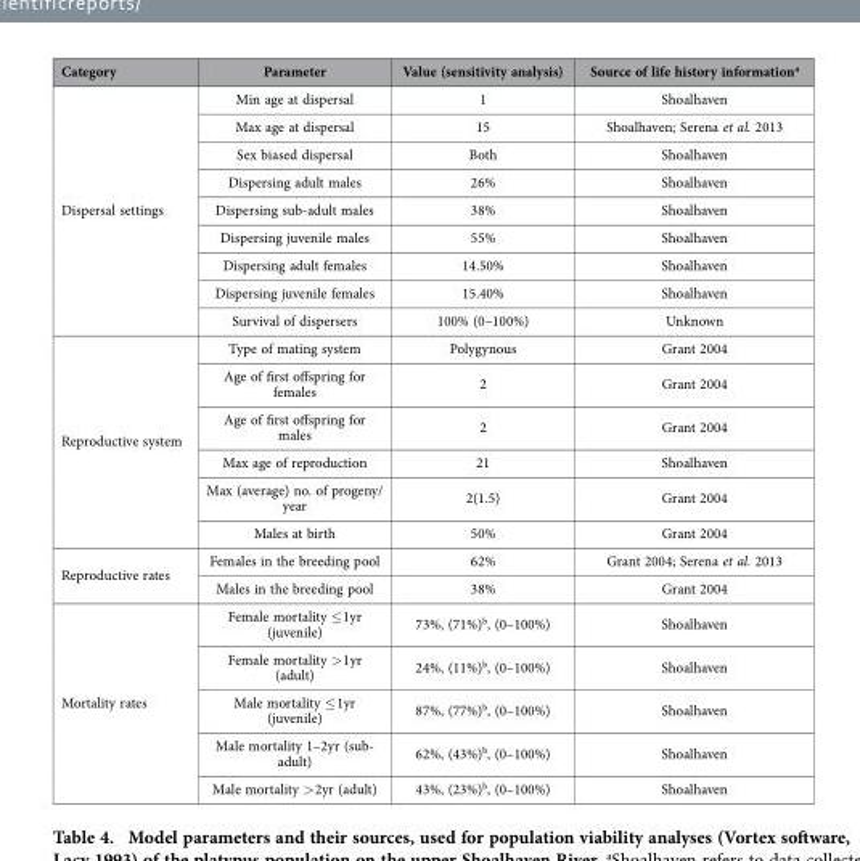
<table><thead><tr><td>Category</td><td>Parameter</td><td>Value (sensitivity analysis)</td><td>Source of life history information<sup>a</sup></td></tr></thead><tbody><tr><td rowspan="9">Dispersal settings</td><td>Min age at dispersal</td><td>1</td><td>Shoalhaven</td></tr><tr><td>Max age at dispersal</td><td>15</td><td>Shoalhaven; Serena et al. 2013</td></tr><tr><td>Sex biased dispersal</td><td>Both</td><td>Shoalhaven</td></tr><tr><td>Dispersing adult males</td><td>26%</td><td>Shoalhaven</td></tr><tr><td>Dispersing sub-adult males</td><td>38%</td><td>Shoalhaven</td></tr><tr><td>Dispersing juvenile males</td><td>55%</td><td>Shoalhaven</td></tr><tr><td>Dispersing adult females</td><td>14.50%</td><td>Shoalhaven</td></tr><tr><td>Dispersing juvenile females</td><td>15.40%</td><td>Shoalhaven</td></tr><tr><td>Survival of dispersers</td><td>100% (0–100%)</td><td>Unknown</td></tr><tr><td rowspan="6">Reproductive system</td><td>Type of mating system</td><td>Polygynous</td><td>Grant 2004</td></tr><tr><td>Age of first offspring for females</td><td>2</td><td>Grant 2004</td></tr><tr><td>Age of first offspring for males</td><td>2</td><td>Grant 2004</td></tr><tr><td>Max age of reproduction</td><td>21</td><td>Shoalhaven</td></tr><tr><td>Max (average) no. of progeny/ year</td><td>2(1.5)</td><td>Grant 2004</td></tr><tr><td>Males at birth</td><td>50%</td><td>Grant 2004</td></tr><tr><td rowspan="2">Reproductive rates</td><td>Females in the breeding pool</td><td>62%</td><td>Grant 2004; Serena et al. 2013</td></tr><tr><td>Males in the breeding pool</td><td>38%</td><td>Grant 2004</td></tr><tr><td rowspan="5">Mortality rates</td><td>Female mortality ≤ 1yr (juvenile)</td><td>73%, (71%)<sup>b</sup>, (0–100%)</td><td>Shoalhaven</td></tr><tr><td>Female mortality &gt; 1yr (adult)</td><td>24%, (11%)<sup>b</sup>, (0–100%)</td><td>Shoalhaven</td></tr><tr><td>Male mortality ≤ 1yr (juvenile)</td><td>87%, (77%)<sup>b</sup>, (0–100%)</td><td>Shoalhaven</td></tr><tr><td>Male mortality 1–2yr (sub- adult)</td><td>62%, (43%)<sup>b</sup>, (0–100%)</td><td>Shoalhaven</td></tr><tr><td>Male mortality &gt; 2yr (adult)</td><td>43%, (23%)<sup>b</sup>, (0–100%)</td><td>Shoalhaven</td></tr></tbody></table>